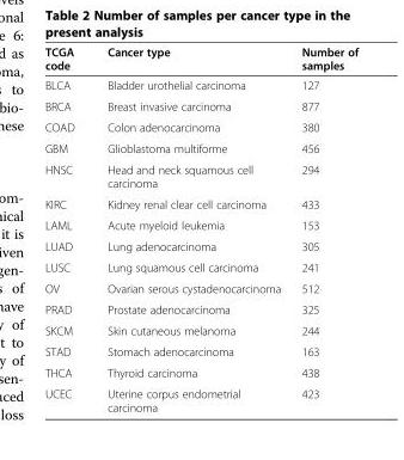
<table><thead><tr><td>TCGA code</td><td>Cancer type</td><td>Number of samples</td></tr></thead><tbody><tr><td>BLCA</td><td>Bladder urothelial carcinoma</td><td>127</td></tr><tr><td>BRCA</td><td>Breast invasive carcinoma</td><td>877</td></tr><tr><td>COAD</td><td>Colon adenocarcinoma</td><td>380</td></tr><tr><td>GBM</td><td>Glioblastoma multiforme</td><td>456</td></tr><tr><td>HNSC</td><td>Head and neck squamous cell carcinoma</td><td>294</td></tr><tr><td>KIRC</td><td>Kidney renal clear cell carcinoma</td><td>433</td></tr><tr><td>LAML</td><td>Acute myeloid leukemia</td><td>153</td></tr><tr><td>LUAD</td><td>Lung adenocarcinoma</td><td>305</td></tr><tr><td>LUSC</td><td>Lung squamous cell carcinoma</td><td>241</td></tr><tr><td>OV</td><td>Ovarian serous cystadenocarcinoma</td><td>512</td></tr><tr><td>PRAD</td><td>Prostate adenocarcinoma</td><td>325</td></tr><tr><td>SKCM</td><td>Skin cutaneous melanoma</td><td>244</td></tr><tr><td>STAD</td><td>Stomach adenocarcinoma</td><td>163</td></tr><tr><td>THCA</td><td>Thyroid carcinoma</td><td>438</td></tr><tr><td>UCEC</td><td>Uterine corpus endometrial carcinoma</td><td>423</td></tr></tbody></table>